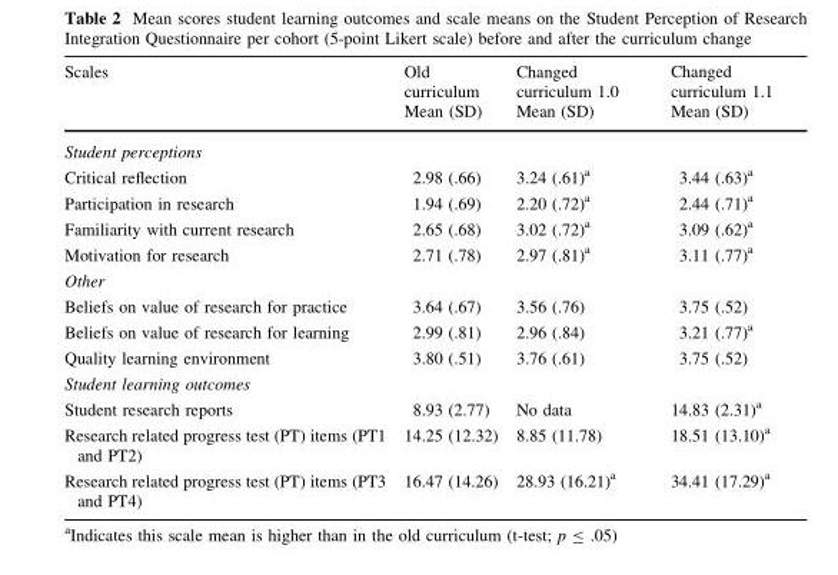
<table><thead><tr><td>Scales</td><td>Old curriculum Mean (SD)</td><td>Changed curriculum 1.0 Mean (SD)</td><td>Changed curriculum 1.1 Mean (SD)</td></tr></thead><tbody><tr><td colspan="4">Student perceptions</td></tr><tr><td>Critical reflection</td><td>2.98 (.66)</td><td>3.24 (.61)<sup>a</sup></td><td>3.44 (.63)<sup>a</sup></td></tr><tr><td>Participation in research</td><td>1.94 (.69)</td><td>2.20 (.72)<sup>a</sup></td><td>2.44 (.71)<sup>a</sup></td></tr><tr><td>Familiarity with current research</td><td>2.65 (.68)</td><td>3.02 (.72)<sup>a</sup></td><td>3.09 (.62)<sup>a</sup></td></tr><tr><td>Motivation for research</td><td>2.71 (.78)</td><td>2.97 (.81)<sup>a</sup></td><td>3.11 (.77)<sup>a</sup></td></tr><tr><td colspan="4">Other</td></tr><tr><td>Beliefs on value of research for practice</td><td>3.64 (.67)</td><td>3.56 (.76)</td><td>3.75 (.52)</td></tr><tr><td>Beliefs on value of research for learning</td><td>2.99 (.81)</td><td>2.96 (.84)</td><td>3.21 (.77)<sup>a</sup></td></tr><tr><td>Quality learning environment</td><td>3.80 (.51)</td><td>3.76 (.61)</td><td>3.75 (.52)</td></tr><tr><td colspan="4">Student learning outcomes</td></tr><tr><td>Student research reports</td><td>8.93 (2.77)</td><td>No data</td><td>14.83 (2.31)<sup>a</sup></td></tr><tr><td>Research related progress test (PT) items (PT1 and PT2)</td><td>14.25 (12.32)</td><td>8.85 (11.78)</td><td>18.51 (13.10)<sup>a</sup></td></tr><tr><td>Research related progress test (PT) items (PT3 and PT4)</td><td>16.47 (14.26)</td><td>28.93 (16.21)<sup>a</sup></td><td>34.41 (17.29)<sup>a</sup></td></tr></tbody></table>